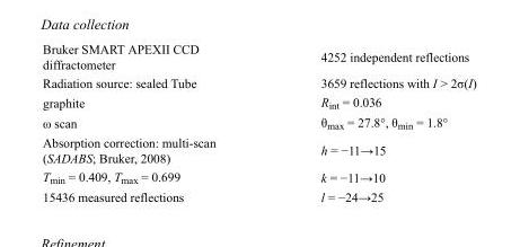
<table><tbody><tr><td>Bruker SMART APEXII CCD diffractometer</td><td>4252 independent reflections</td></tr><tr><td>Radiation source: sealed Tube</td><td>3659 reflections with I &gt; 2σ(I)</td></tr><tr><td>graphite</td><td>R<sub>int</sub> = 0.036</td></tr><tr><td>ω scan</td><td>θ<sub>max</sub> = 27.8°, θ<sub>min</sub> = 1.8°</td></tr><tr><td>Absorption correction: multi-scan (SADABS; Bruker, 2008)</td><td>h = −11→15</td></tr><tr><td>T<sub>min</sub> = 0.409, T<sub>max</sub> = 0.699</td><td>k = −11→10</td></tr><tr><td>15436 measured reflections</td><td>l = −24→25</td></tr></tbody></table>